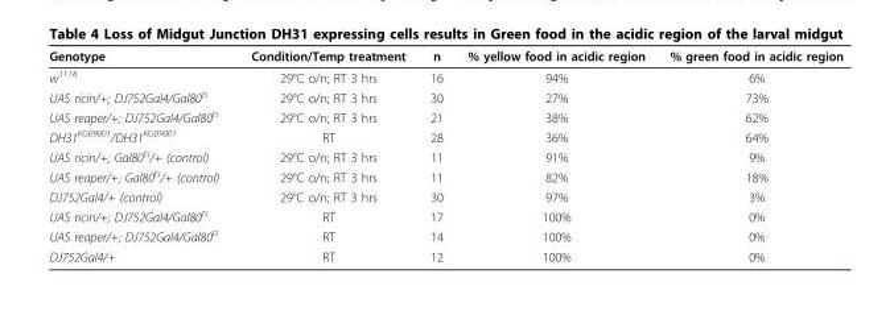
<table><thead><tr><td>Genotype</td><td>Condition/Temp treatment</td><td>n</td><td>% yellow food in acidic region</td><td>% green food in acidic region</td></tr></thead><tbody><tr><td>w<sup>1118</sup></td><td>29°C o/n; RT 3 hrs</td><td>16</td><td>94%</td><td>6%</td></tr><tr><td>UAS ricin/+; DJ752Gal4/Gal80<sup>ts</sup></td><td>29°C o/n; RT 3 hrs</td><td>30</td><td>27%</td><td>73%</td></tr><tr><td>UAS reaper/+; DJ752Gal4/Gal80<sup>ts</sup></td><td>29°C o/n; RT 3 hrs</td><td>21</td><td>38%</td><td>62%</td></tr><tr><td>DH31<sup>KG09001</sup>/DH31<sup>KG09001</sup></td><td>RT</td><td>28</td><td>36%</td><td>64%</td></tr><tr><td>UAS ricin/+; Gal80<sup>ts</sup>/+ (control)</td><td>29°C o/n; RT 3 hrs</td><td>11</td><td>91%</td><td>9%</td></tr><tr><td>UAS reaper/+; Gal80<sup>ts</sup>/+ (control)</td><td>29°C o/n; RT 3 hrs</td><td>11</td><td>82%</td><td>18%</td></tr><tr><td>DJ752Gal4/+ (control)</td><td>29°C o/n; RT 3 hrs</td><td>30</td><td>97%</td><td>3%</td></tr><tr><td>UAS ricin/+; DJ752Gal4/Gal80<sup>ts</sup></td><td>RT</td><td>17</td><td>100%</td><td>0%</td></tr><tr><td>UAS reaper/+; DJ752Gal4/Gal80<sup>ts</sup></td><td>RT</td><td>14</td><td>100%</td><td>0%</td></tr><tr><td>DJ752Gal4/+</td><td>RT</td><td>12</td><td>100%</td><td>0%</td></tr></tbody></table>